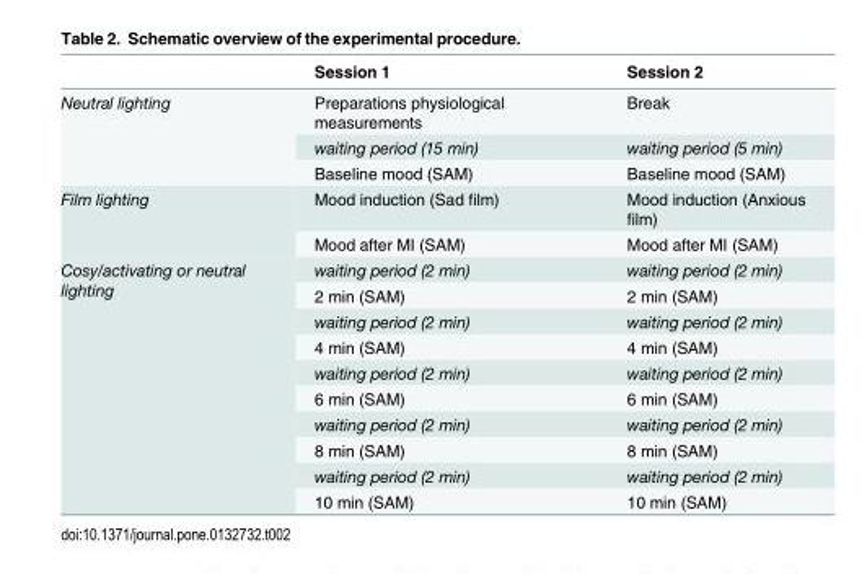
<table><thead><tr><td></td><td>Session 1</td><td>Session 2</td></tr></thead><tbody><tr><td rowspan="3">Neutral lighting</td><td>Preparations physiological measurements</td><td>Break</td></tr><tr><td>waiting period (15 min)</td><td>waiting period (5 min)</td></tr><tr><td>Baseline mood (SAM)</td><td>Baseline mood (SAM)</td></tr><tr><td rowspan="2">Film lighting</td><td>Mood induction (Sad film)</td><td>Mood induction (Anxious film)</td></tr><tr><td>Mood after MI (SAM)</td><td>Mood after MI (SAM)</td></tr><tr><td rowspan="10">Cosy/activating or neutral lighting</td><td>waiting period (2 min)</td><td>waiting period (2 min)</td></tr><tr><td>2 min (SAM)</td><td>2 min (SAM)</td></tr><tr><td>waiting period (2 min)</td><td>waiting period (2 min)</td></tr><tr><td>4 min (SAM)</td><td>4 min (SAM)</td></tr><tr><td>waiting period (2 min)</td><td>waiting period (2 min)</td></tr><tr><td>6 min (SAM)</td><td>6 min (SAM)</td></tr><tr><td>waiting period (2 min)</td><td>waiting period (2 min)</td></tr><tr><td>8 min (SAM)</td><td>8 min (SAM)</td></tr><tr><td>waiting period (2 min)</td><td>waiting period (2 min)</td></tr><tr><td>10 min (SAM)</td><td>10 min (SAM)</td></tr></tbody></table>